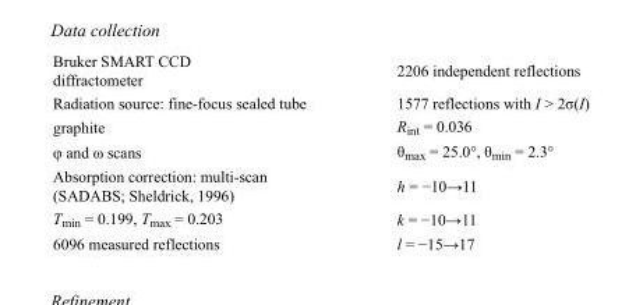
<table><tbody><tr><td>Bruker SMART CCD diffractometer</td><td>2206 independent reflections</td></tr><tr><td>Radiation source: fine-focus sealed tube</td><td>1577 reflections with I &gt; 2σ(I)</td></tr><tr><td>graphite</td><td>R<sub>int</sub> = 0.036</td></tr><tr><td>φ and ω scans</td><td>θ<sub>max</sub> = 25.0°, θ<sub>min</sub> = 2.3°</td></tr><tr><td>Absorption correction: multi-scan (SADABS; Sheldrick, 1996)</td><td>h = −10→11</td></tr><tr><td>T<sub>min</sub> = 0.199, T<sub>max</sub> = 0.203</td><td>k = −10→11</td></tr><tr><td>6096 measured reflections</td><td>l = −15→17</td></tr></tbody></table>